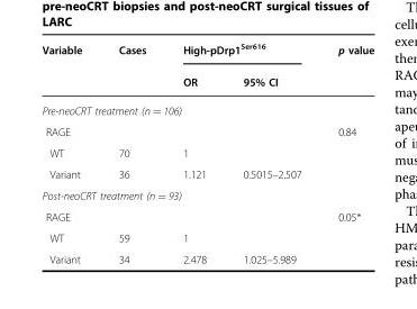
<table><thead><tr><td rowspan="2">Variable</td><td rowspan="2">Cases</td><td colspan="2">High-pDrp1<sup>Ser616</sup></td><td rowspan="2">p value</td></tr><tr><td>OR</td><td>95% CI</td></tr></thead><tbody><tr><td colspan="5">Pre-neoCRT treatment (n = 106)</td></tr><tr><td>RAGE</td><td></td><td></td><td></td><td>0.84</td></tr><tr><td>WT</td><td>70</td><td>1</td><td></td><td></td></tr><tr><td>Variant</td><td>36</td><td>1.121</td><td>0.5015–2.507</td><td></td></tr><tr><td colspan="5">Post-neoCRT treatment (n = 93)</td></tr><tr><td>RAGE</td><td></td><td></td><td></td><td>0.05*</td></tr><tr><td>WT</td><td>59</td><td>1</td><td></td><td></td></tr><tr><td>Variant</td><td>34</td><td>2.478</td><td>1.025–5.989</td><td></td></tr></tbody></table>